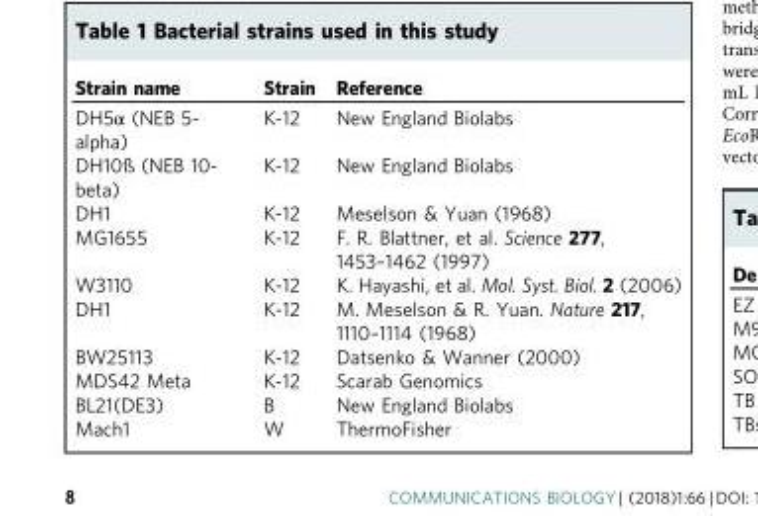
<table><thead><tr><td>Strain name</td><td>Strain</td><td>Reference</td></tr></thead><tbody><tr><td>DH5α (NEB 5- alpha)</td><td>K-12</td><td>New England Biolabs</td></tr><tr><td>DH10ß (NEB 10- beta)</td><td>K-12</td><td>New England Biolabs</td></tr><tr><td>DH1</td><td>K-12</td><td>Meselson &amp; Yuan (1968)</td></tr><tr><td>MG1655</td><td>K-12</td><td>F. R. Blattner, et al. Science 277, 1453–1462 (1997)</td></tr><tr><td>W3110</td><td>K-12</td><td>K. Hayashi, et al. Mol. Syst. Biol. 2 (2006)</td></tr><tr><td>DH1</td><td>K-12</td><td>M. Meselson &amp; R. Yuan. Nature 217, 1110–1114 (1968)</td></tr><tr><td>BW25113</td><td>K-12</td><td>Datsenko &amp; Wanner (2000)</td></tr><tr><td>MDS42 Meta</td><td>K-12</td><td>Scarab Genomics</td></tr><tr><td>BL21(DE3)</td><td>B</td><td>New England Biolabs</td></tr><tr><td>Mach1</td><td>W</td><td>ThermoFisher</td></tr></tbody></table>